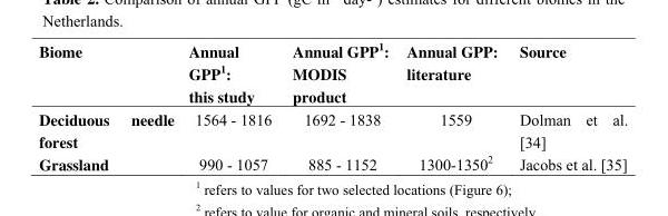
<table><thead><tr><td>Biome</td><td>Annual GPP<sup>1</sup>: this study</td><td>Annual GPP<sup>1</sup>: MODIS product</td><td>Annual GPP: literature</td><td>Source</td></tr></thead><tbody><tr><td>Deciduous needle forest</td><td>1564 - 1816</td><td>1692 - 1838</td><td>1559</td><td>Dolman et al. [34]</td></tr><tr><td>Grassland</td><td>990 - 1057</td><td>885 - 1152</td><td>1300-1350<sup>2</sup></td><td>Jacobs et al. [35]</td></tr></tbody></table>